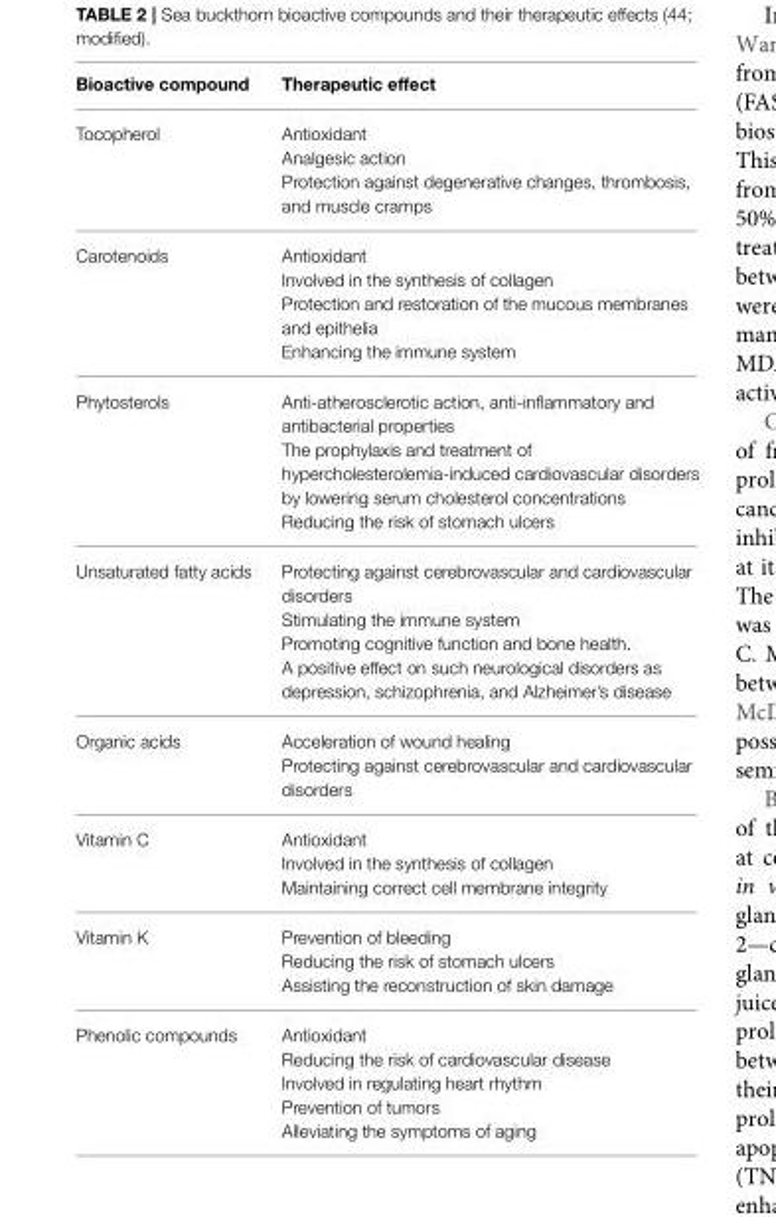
<table><thead><tr><td>Bioactive compound</td><td>Therapeutic effect</td></tr></thead><tbody><tr><td>Tocopherol</td><td>Antioxidant Analgesic action Protection against degenerative changes, thrombosis, and muscle cramps</td></tr><tr><td>Carotenoids</td><td>Antioxidant Involved in the synthesis of collagen Protection and restoration of the mucous membranes and epithelia Enhancing the immune system</td></tr><tr><td>Phytosterols</td><td>Anti-atherosclerotic action, anti-inflammatory and antibacterial properties The prophylaxis and treatment of hypercholesterolemia-induced cardiovascular disorders by lowering serum cholesterol concentrations Reducing the risk of stomach ulcers</td></tr><tr><td>Unsaturated fatty acids</td><td>Protecting against cerebrovascular and cardiovascular disorders Stimulating the immune system Promoting cognitive function and bone health. A positive effect on such neurological disorders as depression, schizophrenia, and Alzheimer’s disease</td></tr><tr><td>Organic acids</td><td>Acceleration of wound healing Protecting against cerebrovascular and cardiovascular disorders</td></tr><tr><td>Vitamin C</td><td>Antioxidant Involved in the synthesis of collagen Maintaining correct cell membrane integrity</td></tr><tr><td>Vitamin K</td><td>Prevention of bleeding Reducing the risk of stomach ulcers Assisting the reconstruction of skin damage</td></tr><tr><td>Phenolic compounds</td><td>Antioxidant Reducing the risk of cardiovascular disease Involved in regulating heart rhythm Prevention of tumors Alleviating the symptoms of aging</td></tr></tbody></table>